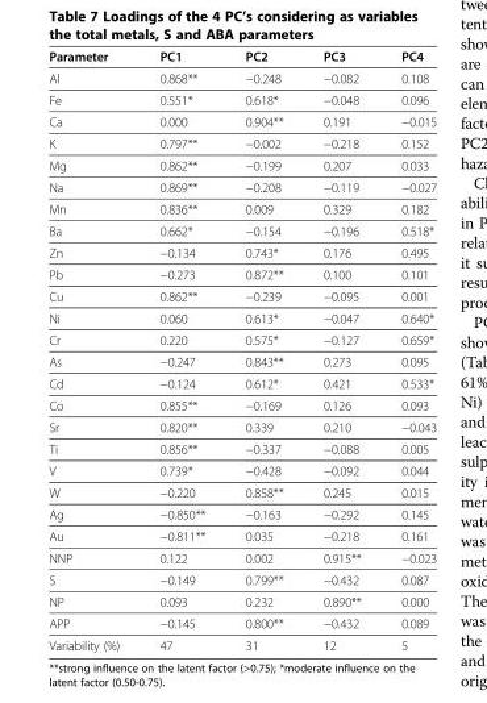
<table><thead><tr><td>Parameter</td><td>PC1</td><td>PC2</td><td>PC3</td><td>PC4</td></tr></thead><tbody><tr><td>Al</td><td>0.868**</td><td>−0.248</td><td>−0.082</td><td>0.108</td></tr><tr><td>Fe</td><td>0.551*</td><td>0.618*</td><td>−0.048</td><td>0.096</td></tr><tr><td>Ca</td><td>0.000</td><td>0.904**</td><td>0.191</td><td>−0.015</td></tr><tr><td>K</td><td>0.797**</td><td>−0.002</td><td>−0.218</td><td>0.152</td></tr><tr><td>Mg</td><td>0.862**</td><td>−0.199</td><td>0.207</td><td>0.033</td></tr><tr><td>Na</td><td>0.869**</td><td>−0.208</td><td>−0.119</td><td>−0.027</td></tr><tr><td>Mn</td><td>0.836**</td><td>0.009</td><td>0.329</td><td>0.182</td></tr><tr><td>Ba</td><td>0.662*</td><td>−0.154</td><td>−0.196</td><td>0.518*</td></tr><tr><td>Zn</td><td>−0.134</td><td>0.743*</td><td>0.176</td><td>0.495</td></tr><tr><td>Pb</td><td>−0.273</td><td>0.872**</td><td>0.100</td><td>0.101</td></tr><tr><td>Cu</td><td>0.862**</td><td>−0.239</td><td>−0.095</td><td>0.001</td></tr><tr><td>Ni</td><td>0.060</td><td>0.613*</td><td>−0.047</td><td>0.640*</td></tr><tr><td>Cr</td><td>0.220</td><td>0.575*</td><td>−0.127</td><td>0.659*</td></tr><tr><td>As</td><td>−0.247</td><td>0.843**</td><td>0.273</td><td>0.095</td></tr><tr><td>Cd</td><td>−0.124</td><td>0.612*</td><td>0.421</td><td>0.533*</td></tr><tr><td>Co</td><td>0.855**</td><td>−0.169</td><td>0.126</td><td>0.093</td></tr><tr><td>Sr</td><td>0.820**</td><td>0.339</td><td>0.210</td><td>−0.043</td></tr><tr><td>Ti</td><td>0.856**</td><td>−0.337</td><td>−0.088</td><td>0.005</td></tr><tr><td>V</td><td>0.739*</td><td>−0.428</td><td>−0.092</td><td>0.044</td></tr><tr><td>W</td><td>−0.220</td><td>0.858**</td><td>0.245</td><td>0.015</td></tr><tr><td>Ag</td><td>−0.850**</td><td>−0.163</td><td>−0.292</td><td>0.145</td></tr><tr><td>Au</td><td>−0.811**</td><td>0.035</td><td>−0.218</td><td>0.161</td></tr><tr><td>NNP</td><td>0.122</td><td>0.002</td><td>0.915**</td><td>−0.023</td></tr><tr><td>S</td><td>−0.149</td><td>0.799**</td><td>−0.432</td><td>0.087</td></tr><tr><td>NP</td><td>0.093</td><td>0.232</td><td>0.890**</td><td>0.000</td></tr><tr><td>APP</td><td>−0.145</td><td>0.800**</td><td>−0.432</td><td>0.089</td></tr><tr><td>Variability (%)</td><td>47</td><td>31</td><td>12</td><td>5</td></tr></tbody></table>